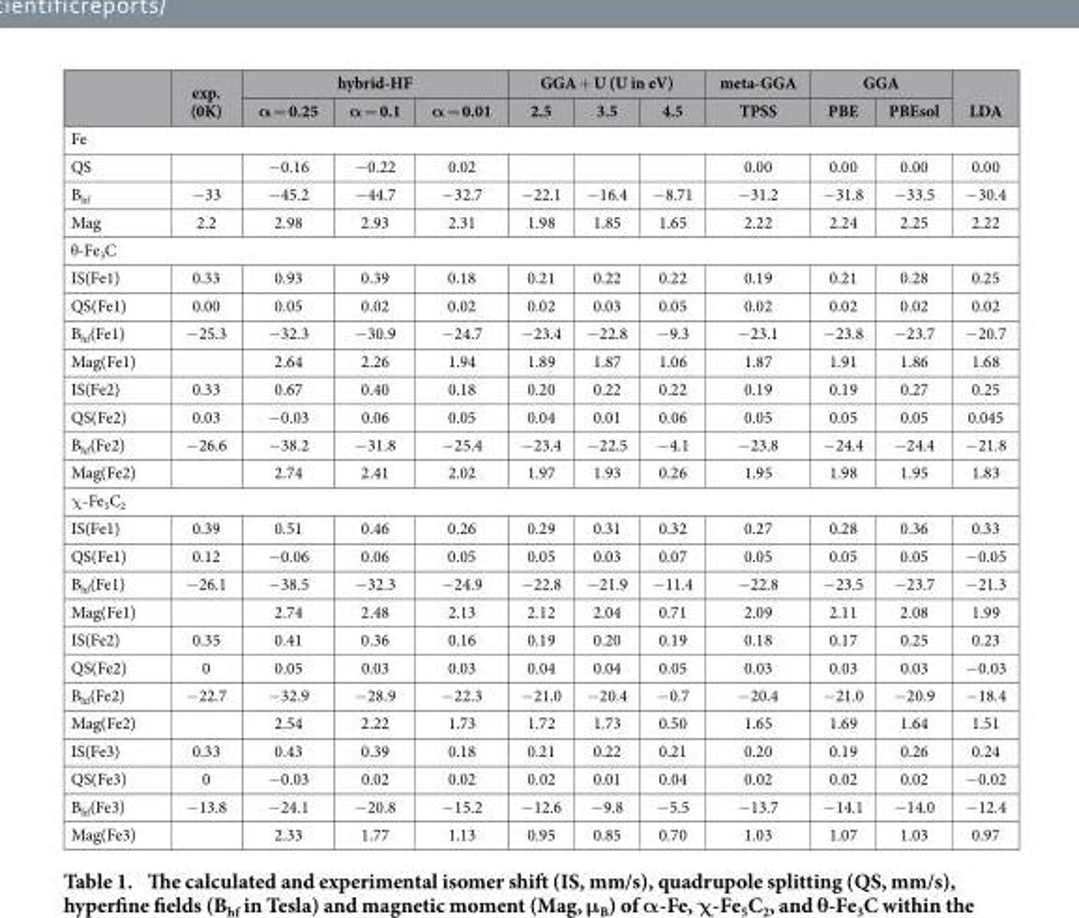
<table><thead><tr><td rowspan="2"></td><td rowspan="2">exp. (0K)</td><td colspan="3">hybrid-HF</td><td colspan="3">GGA + U (U in eV)</td><td rowspan="2">meta-GGA TPSS</td><td colspan="2">GGA</td><td rowspan="2">LDA</td></tr><tr><td>α = 0.25</td><td>α = 0.1</td><td>α = 0.01</td><td>2.5</td><td>3.5</td><td>4.5</td><td>PBE</td><td>PBEsol</td></tr></thead><tbody><tr><td colspan="12">Fe</td></tr><tr><td>QS</td><td></td><td>− 0.16</td><td>− 0.22</td><td>0.02</td><td></td><td></td><td></td><td>0.00</td><td>0.00</td><td>0.00</td><td>0.00</td></tr><tr><td>B<sub>hf</sub></td><td>− 33</td><td>− 45.2</td><td>− 44.7</td><td>− 32.7</td><td>− 22.1</td><td>− 16.4</td><td>− 8.71</td><td>− 31.2</td><td>− 31.8</td><td>− 33.5</td><td>− 30.4</td></tr><tr><td>Mag</td><td>2.2</td><td>2.98</td><td>2.93</td><td>2.31</td><td>1.98</td><td>1.85</td><td>1.65</td><td>2.22</td><td>2.24</td><td>2.25</td><td>2.22</td></tr><tr><td colspan="12">θ -Fe<sub>3</sub>C</td></tr><tr><td>IS(Fe1)</td><td>0.33</td><td>0.93</td><td>0.39</td><td>0.18</td><td>0.21</td><td>0.22</td><td>0.22</td><td>0.19</td><td>0.21</td><td>0.28</td><td>0.25</td></tr><tr><td>QS(Fe1)</td><td>0.00</td><td>0.05</td><td>0.02</td><td>0.02</td><td>0.02</td><td>0.03</td><td>0.05</td><td>0.02</td><td>0.02</td><td>0.02</td><td>0.02</td></tr><tr><td>B<sub>hf</sub>(Fe1)</td><td>− 25.3</td><td>− 32.3</td><td>− 30.9</td><td>− 24.7</td><td>− 23.4</td><td>− 22.8</td><td>− 9.3</td><td>− 23.1</td><td>− 23.8</td><td>− 23.7</td><td>− 20.7</td></tr><tr><td>Mag(Fe1)</td><td></td><td>2.64</td><td>2.26</td><td>1.94</td><td>1.89</td><td>1.87</td><td>1.06</td><td>1.87</td><td>1.91</td><td>1.86</td><td>1.68</td></tr><tr><td>IS(Fe2)</td><td>0.33</td><td>0.67</td><td>0.40</td><td>0.18</td><td>0.20</td><td>0.22</td><td>0.22</td><td>0.19</td><td>0.19</td><td>0.27</td><td>0.25</td></tr><tr><td>QS(Fe2)</td><td>0.03</td><td>− 0.03</td><td>0.06</td><td>0.05</td><td>0.04</td><td>0.01</td><td>0.06</td><td>0.05</td><td>0.05</td><td>0.05</td><td>0.045</td></tr><tr><td>B<sub>hf</sub>(Fe2)</td><td>− 26.6</td><td>− 38.2</td><td>− 31.8</td><td>− 25.4</td><td>− 23.4</td><td>− 22.5</td><td>− 4.1</td><td>− 23.8</td><td>− 24.4</td><td>− 24.4</td><td>− 21.8</td></tr><tr><td>Mag(Fe2)</td><td></td><td>2.74</td><td>2.41</td><td>2.02</td><td>1.97</td><td>1.93</td><td>0.26</td><td>1.95</td><td>1.98</td><td>1.95</td><td>1.83</td></tr><tr><td colspan="12">χ -Fe<sub>5</sub>C<sub>2</sub></td></tr><tr><td>IS(Fe1)</td><td>0.39</td><td>0.51</td><td>0.46</td><td>0.26</td><td>0.29</td><td>0.31</td><td>0.32</td><td>0.27</td><td>0.28</td><td>0.36</td><td>0.33</td></tr><tr><td>QS(Fe1)</td><td>0.12</td><td>− 0.06</td><td>0.06</td><td>0.05</td><td>0.05</td><td>0.03</td><td>0.07</td><td>0.05</td><td>0.05</td><td>0.05</td><td>− 0.05</td></tr><tr><td>B<sub>hf</sub>(Fe1)</td><td>− 26.1</td><td>− 38.5</td><td>− 32.3</td><td>− 24.9</td><td>− 22.8</td><td>− 21.9</td><td>− 11.4</td><td>− 22.8</td><td>− 23.5</td><td>− 23.7</td><td>− 21.3</td></tr><tr><td>Mag(Fe1)</td><td></td><td>2.74</td><td>2.48</td><td>2.13</td><td>2.12</td><td>2.04</td><td>0.71</td><td>2.09</td><td>2.11</td><td>2.08</td><td>1.99</td></tr><tr><td>IS(Fe2)</td><td>0.35</td><td>0.41</td><td>0.36</td><td>0.16</td><td>0.19</td><td>0.20</td><td>0.19</td><td>0.18</td><td>0.17</td><td>0.25</td><td>0.23</td></tr><tr><td>QS(Fe2)</td><td>0</td><td>0.05</td><td>0.03</td><td>0.03</td><td>0.04</td><td>0.04</td><td>0.05</td><td>0.03</td><td>0.03</td><td>0.03</td><td>− 0.03</td></tr><tr><td>B<sub>hf</sub>(Fe2)</td><td>− 22.7</td><td>− 32.9</td><td>− 28.9</td><td>− 22.3</td><td>− 21.0</td><td>− 20.4</td><td>− 0.7</td><td>− 20.4</td><td>− 21.0</td><td>− 20.9</td><td>− 18.4</td></tr><tr><td>Mag(Fe2)</td><td></td><td>2.54</td><td>2.22</td><td>1.73</td><td>1.72</td><td>1.73</td><td>0.50</td><td>1.65</td><td>1.69</td><td>1.64</td><td>1.51</td></tr><tr><td>IS(Fe3)</td><td>0.33</td><td>0.43</td><td>0.39</td><td>0.18</td><td>0.21</td><td>0.22</td><td>0.21</td><td>0.20</td><td>0.19</td><td>0.26</td><td>0.24</td></tr><tr><td>QS(Fe3)</td><td>0</td><td>− 0.03</td><td>0.02</td><td>0.02</td><td>0.02</td><td>0.01</td><td>0.04</td><td>0.02</td><td>0.02</td><td>0.02</td><td>− 0.02</td></tr><tr><td>B<sub>hf</sub>(Fe3)</td><td>− 13.8</td><td>− 24.1</td><td>− 20.8</td><td>− 15.2</td><td>− 12.6</td><td>− 9.8</td><td>− 5.5</td><td>− 13.7</td><td>− 14.1</td><td>− 14.0</td><td>− 12.4</td></tr><tr><td>Mag(Fe3)</td><td></td><td>2.33</td><td>1.77</td><td>1.13</td><td>0.95</td><td>0.85</td><td>0.70</td><td>1.03</td><td>1.07</td><td>1.03</td><td>0.97</td></tr></tbody></table>